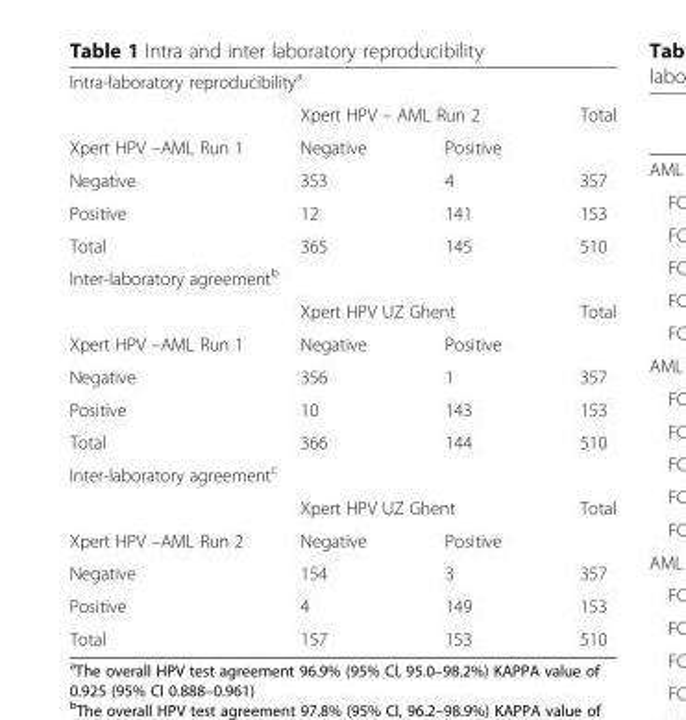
<table><tbody><tr><td colspan="4">Intra-laboratory reproducibility<sup>a</sup></td></tr><tr><td></td><td colspan="2">Xpert HPV – AML Run 2</td><td>Total</td></tr><tr><td>Xpert HPV –AML Run 1</td><td>Negative</td><td>Positive</td><td></td></tr><tr><td>Negative</td><td>353</td><td>4</td><td>357</td></tr><tr><td>Positive</td><td>12</td><td>141</td><td>153</td></tr><tr><td>Total</td><td>365</td><td>145</td><td>510</td></tr><tr><td colspan="4">Inter-laboratory agreement<sup>b</sup></td></tr><tr><td></td><td colspan="2">Xpert HPV UZ Ghent</td><td>Total</td></tr><tr><td>Xpert HPV –AML Run 1</td><td>Negative</td><td>Positive</td><td></td></tr><tr><td>Negative</td><td>356</td><td>1</td><td>357</td></tr><tr><td>Positive</td><td>10</td><td>143</td><td>153</td></tr><tr><td>Total</td><td>366</td><td>144</td><td>510</td></tr><tr><td colspan="4">Inter-laboratory agreement<sup>c</sup></td></tr><tr><td></td><td colspan="2">Xpert HPV UZ Ghent</td><td>Total</td></tr><tr><td>Xpert HPV –AML Run 2</td><td>Negative</td><td>Positive</td><td></td></tr><tr><td>Negative</td><td>154</td><td>3</td><td>357</td></tr><tr><td>Positive</td><td>4</td><td>149</td><td>153</td></tr><tr><td>Total</td><td>157</td><td>153</td><td>510</td></tr></tbody></table>